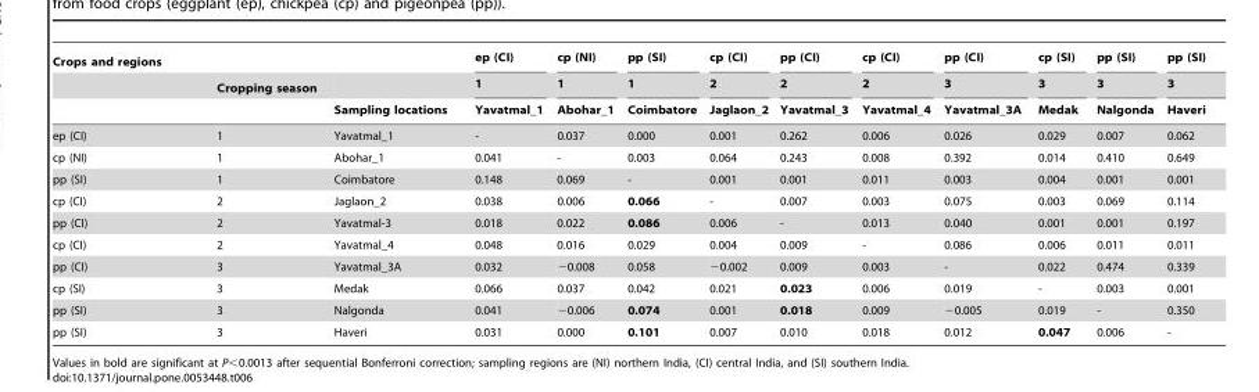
<table><thead><tr><td rowspan="3">Crops and regions</td><td rowspan="3">Cropping season</td><td rowspan="3">Sampling locations</td><td rowspan="3">ep (CI) 1 Yavatmal_1</td><td rowspan="3">cp (NI) 1 Abohar_1</td><td rowspan="3">pp (SI) 1 Coimbatore</td><td rowspan="3">cp (CI) 2 Jaglaon_2</td><td rowspan="3">pp (CI) 2 Yavatmal_3</td><td rowspan="3">cp (CI) 2 Yavatmal_4</td><td rowspan="3">pp (CI) 3 Yavatmal_3A</td><td rowspan="3">cp (SI) 3 Medak</td><td rowspan="3">pp (SI) 3 Nalgonda</td><td rowspan="3">pp (SI) 3 Haveri</td></tr><tr></tr><tr></tr></thead><tbody><tr><td>ep (CI)</td><td>1</td><td>Yavatmal_1</td><td>-</td><td>0.037</td><td>0.000</td><td>0.001</td><td>0.262</td><td>0.006</td><td>0.026</td><td>0.029</td><td>0.007</td><td>0.062</td></tr><tr><td>cp (NI)</td><td>1</td><td>Abohar_1</td><td>0.041</td><td>-</td><td>0.003</td><td>0.064</td><td>0.243</td><td>0.008</td><td>0.392</td><td>0.014</td><td>0.410</td><td>0.649</td></tr><tr><td>pp (SI)</td><td>1</td><td>Coimbatore</td><td>0.148</td><td>0.069</td><td>-</td><td>0.001</td><td>0.001</td><td>0.011</td><td>0.003</td><td>0.004</td><td>0.001</td><td>0.001</td></tr><tr><td>cp (CI)</td><td>2</td><td>Jaglaon_2</td><td>0.038</td><td>0.006</td><td>0.066</td><td>-</td><td>0.007</td><td>0.003</td><td>0.075</td><td>0.003</td><td>0.069</td><td>0.114</td></tr><tr><td>pp (CI)</td><td>2</td><td>Yavatmal-3</td><td>0.018</td><td>0.022</td><td>0.086</td><td>0.006</td><td>-</td><td>0.013</td><td>0.040</td><td>0.001</td><td>0.001</td><td>0.197</td></tr><tr><td>cp (CI)</td><td>2</td><td>Yavatmal_4</td><td>0.048</td><td>0.016</td><td>0.029</td><td>0.004</td><td>0.009</td><td>-</td><td>0.086</td><td>0.006</td><td>0.011</td><td>0.011</td></tr><tr><td>pp (CI)</td><td>3</td><td>Yavatmal_3A</td><td>0.032</td><td>−0.008</td><td>0.058</td><td>−0.002</td><td>0.009</td><td>0.003</td><td>-</td><td>0.022</td><td>0.474</td><td>0.339</td></tr><tr><td>cp (SI)</td><td>3</td><td>Medak</td><td>0.066</td><td>0.037</td><td>0.042</td><td>0.021</td><td>0.023</td><td>0.006</td><td>0.019</td><td>-</td><td>0.003</td><td>0.001</td></tr><tr><td>pp (SI)</td><td>3</td><td>Nalgonda</td><td>0.041</td><td>−0.006</td><td>0.074</td><td>0.001</td><td>0.018</td><td>0.009</td><td>−0.005</td><td>0.019</td><td>-</td><td>0.350</td></tr><tr><td>pp (SI)</td><td>3</td><td>Haveri</td><td>0.031</td><td>0.000</td><td>0.101</td><td>0.007</td><td>0.010</td><td>0.018</td><td>0.012</td><td>0.047</td><td>0.006</td><td>-</td></tr></tbody></table>